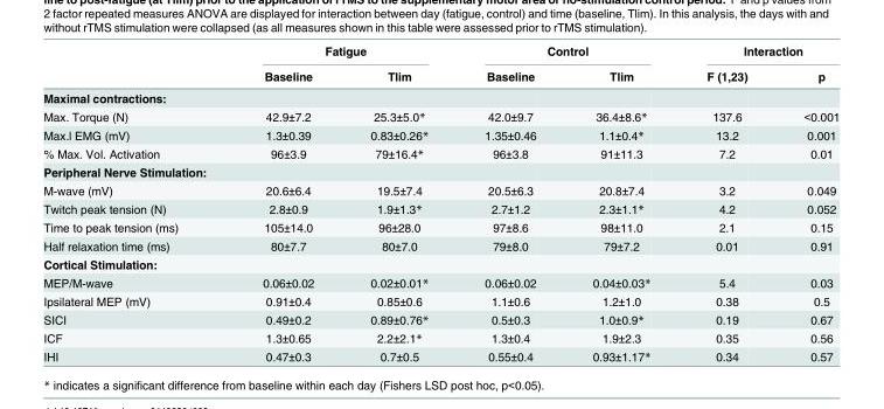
<table><thead><tr><td rowspan="2"></td><td colspan="2">Fatigue</td><td colspan="2">Control</td><td colspan="2">Interaction</td></tr><tr><td>Baseline</td><td>Tlim</td><td>Baseline</td><td>Tlim</td><td>F (1,23)</td><td>p</td></tr></thead><tbody><tr><td colspan="7">Maximal contractions:</td></tr><tr><td>Max. Torque (N)</td><td>42.9±7.2</td><td>25.3±5.0*</td><td>42.0±9.7</td><td>36.4±8.6*</td><td>137.6</td><td>&lt;0.001</td></tr><tr><td>Max.l EMG (mV)</td><td>1.3±0.39</td><td>0.83±0.26*</td><td>1.35±0.46</td><td>1.1±0.4*</td><td>13.2</td><td>0.001</td></tr><tr><td>% Max. Vol. Activation</td><td>96±3.9</td><td>79±16.4*</td><td>96±3.8</td><td>91±11.3</td><td>7.2</td><td>0.01</td></tr><tr><td colspan="7">Peripheral Nerve Stimulation:</td></tr><tr><td>M-wave (mV)</td><td>20.6±6.4</td><td>19.5±7.4</td><td>20.5±6.3</td><td>20.8±7.4</td><td>3.2</td><td>0.049</td></tr><tr><td>Twitch peak tension (N)</td><td>2.8±0.9</td><td>1.9±1.3*</td><td>2.7±1.2</td><td>2.3±1.1*</td><td>4.2</td><td>0.052</td></tr><tr><td>Time to peak tension (ms)</td><td>105±14.0</td><td>96±28.0</td><td>97±8.6</td><td>98±11.0</td><td>2.1</td><td>0.15</td></tr><tr><td>Half relaxation time (ms)</td><td>80±7.7</td><td>80±7.0</td><td>79±8.0</td><td>79±7.2</td><td>0.01</td><td>0.91</td></tr><tr><td colspan="7">Cortical Stimulation:</td></tr><tr><td>MEP/M-wave</td><td>0.06±0.02</td><td>0.02±0.01*</td><td>0.06±0.02</td><td>0.04±0.03*</td><td>5.4</td><td>0.03</td></tr><tr><td>Ipsilateral MEP (mV)</td><td>0.91±0.4</td><td>0.85±0.6</td><td>1.1±0.6</td><td>1.2±1.0</td><td>0.38</td><td>0.5</td></tr><tr><td>SICI</td><td>0.49±0.2</td><td>0.89±0.76*</td><td>0.5±0.3</td><td>1.0±0.9*</td><td>0.19</td><td>0.67</td></tr><tr><td>ICF</td><td>1.3±0.65</td><td>2.2±2.1*</td><td>1.3±0.4</td><td>1.9±2.3</td><td>0.35</td><td>0.56</td></tr><tr><td>IHI</td><td>0.47±0.3</td><td>0.7±0.5</td><td>0.55±0.4</td><td>0.93±1.17*</td><td>0.34</td><td>0.57</td></tr></tbody></table>